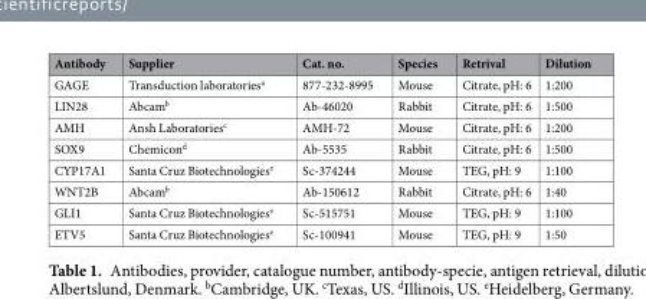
<table><thead><tr><td>Antibody</td><td>Supplier</td><td>Cat. no.</td><td>Species</td><td>Retrival</td><td>Dilution</td></tr></thead><tbody><tr><td>GAGE</td><td>Transduction laboratories<sup>a</sup></td><td>877-232-8995</td><td>Mouse</td><td>Citrate, pH: 6</td><td>1:200</td></tr><tr><td>LIN28</td><td>Abcam<sup>b</sup></td><td>Ab-46020</td><td>Rabbit</td><td>Citrate, pH: 6</td><td>1:500</td></tr><tr><td>AMH</td><td>Ansh Laboratories<sup>c</sup></td><td>AMH-72</td><td>Mouse</td><td>Citrate, pH: 6</td><td>1:200</td></tr><tr><td>SOX9</td><td>Chemicon<sup>d</sup></td><td>Ab-5535</td><td>Rabbit</td><td>Citrate, pH: 6</td><td>1:500</td></tr><tr><td>CYP17A1</td><td>Santa Cruz Biotechnologies<sup>e</sup></td><td>Sc-374244</td><td>Mouse</td><td>TEG, pH: 9</td><td>1:100</td></tr><tr><td>WNT2B</td><td>Abcam<sup>b</sup></td><td>Ab-150612</td><td>Rabbit</td><td>Citrate, pH: 6</td><td>1:40</td></tr><tr><td>GLI1</td><td>Santa Cruz Biotechnologies<sup>e</sup></td><td>Sc-515751</td><td>Mouse</td><td>TEG, pH: 9</td><td>1:100</td></tr><tr><td>ETV5</td><td>Santa Cruz Biotechnologies<sup>e</sup></td><td>Sc-100941</td><td>Mouse</td><td>TEG, pH: 9</td><td>1:50</td></tr></tbody></table>